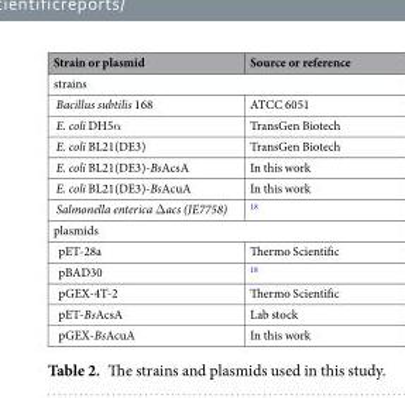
<table><thead><tr><td>Strain or plasmid</td><td>Source or reference</td></tr></thead><tbody><tr><td colspan="2">strains</td></tr><tr><td>Bacillus subtilis 168</td><td>ATCC 6051</td></tr><tr><td>E. coli DH5α</td><td>TransGen Biotech</td></tr><tr><td>E. coli BL21(DE3)</td><td>TransGen Biotech</td></tr><tr><td>E. coli BL21(DE3)-BsAcsA</td><td>In this work</td></tr><tr><td>E. coli BL21(DE3)-BsAcuA</td><td>In this work</td></tr><tr><td>Salmonella enterica Δacs (JE7758)</td><td><sup>18</sup></td></tr><tr><td colspan="2">plasmids</td></tr><tr><td>pET-28a</td><td>Thermo Scientific</td></tr><tr><td>pBAD30</td><td><sup>18</sup></td></tr><tr><td>pGEX-4T-2</td><td>Thermo Scientific</td></tr><tr><td>pET-BsAcsA</td><td>Lab stock</td></tr><tr><td>pGEX-BsAcuA</td><td>In this work</td></tr></tbody></table>